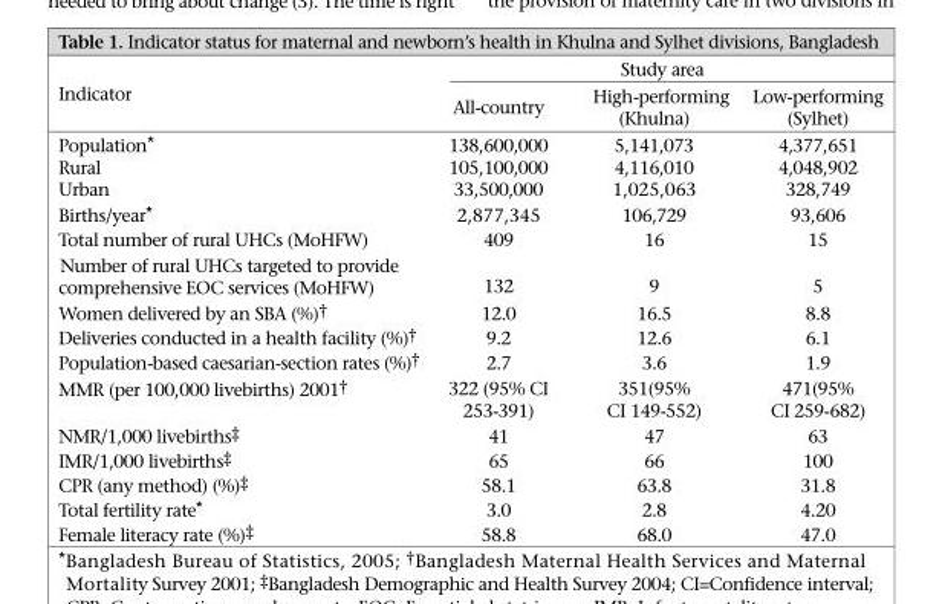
<table><thead><tr><td rowspan="2">Indicator</td><td colspan="3">Study area</td></tr><tr><td>All-country</td><td>High-performing (Khulna)</td><td>Low-performing (Sylhet)</td></tr></thead><tbody><tr><td>Population*</td><td>138,600,000</td><td>5,141,073</td><td>4,377,651</td></tr><tr><td>Rural</td><td>105,100,000</td><td>4,116,010</td><td>4,048,902</td></tr><tr><td>Urban</td><td>33,500,000</td><td>1,025,063</td><td>328,749</td></tr><tr><td>Births/year*</td><td>2,877,345</td><td>106,729</td><td>93,606</td></tr><tr><td>Total number of rural UHCs (MoHFW)</td><td>409</td><td>16</td><td>15</td></tr><tr><td>Number of rural UHCs targeted to provide comprehensive EOC services (MoHFW)</td><td>132</td><td>9</td><td>5</td></tr><tr><td>Women delivered by an SBA (%)†</td><td>12.0</td><td>16.5</td><td>8.8</td></tr><tr><td>Deliveries conducted in a health facility (%)†</td><td>9.2</td><td>12.6</td><td>6.1</td></tr><tr><td>Population-based caesarian-section rates (%)†</td><td>2.7</td><td>3.6</td><td>1.9</td></tr><tr><td>MMR (per 100,000 livebirths) 2001†</td><td>322 (95% CI 253-391)</td><td>351(95% CI 149-552)</td><td>471(95% CI 259-682)</td></tr><tr><td>NMR/1,000 livebirths‡</td><td>41</td><td>47</td><td>63</td></tr><tr><td>IMR/1,000 livebirths‡</td><td>65</td><td>66</td><td>100</td></tr><tr><td>CPR (any method) (%)‡</td><td>58.1</td><td>63.8</td><td>31.8</td></tr><tr><td>Total fertility rate*</td><td>3.0</td><td>2.8</td><td>4.20</td></tr><tr><td>Female literacy rate (%)‡</td><td>58.8</td><td>68.0</td><td>47.0</td></tr></tbody></table>